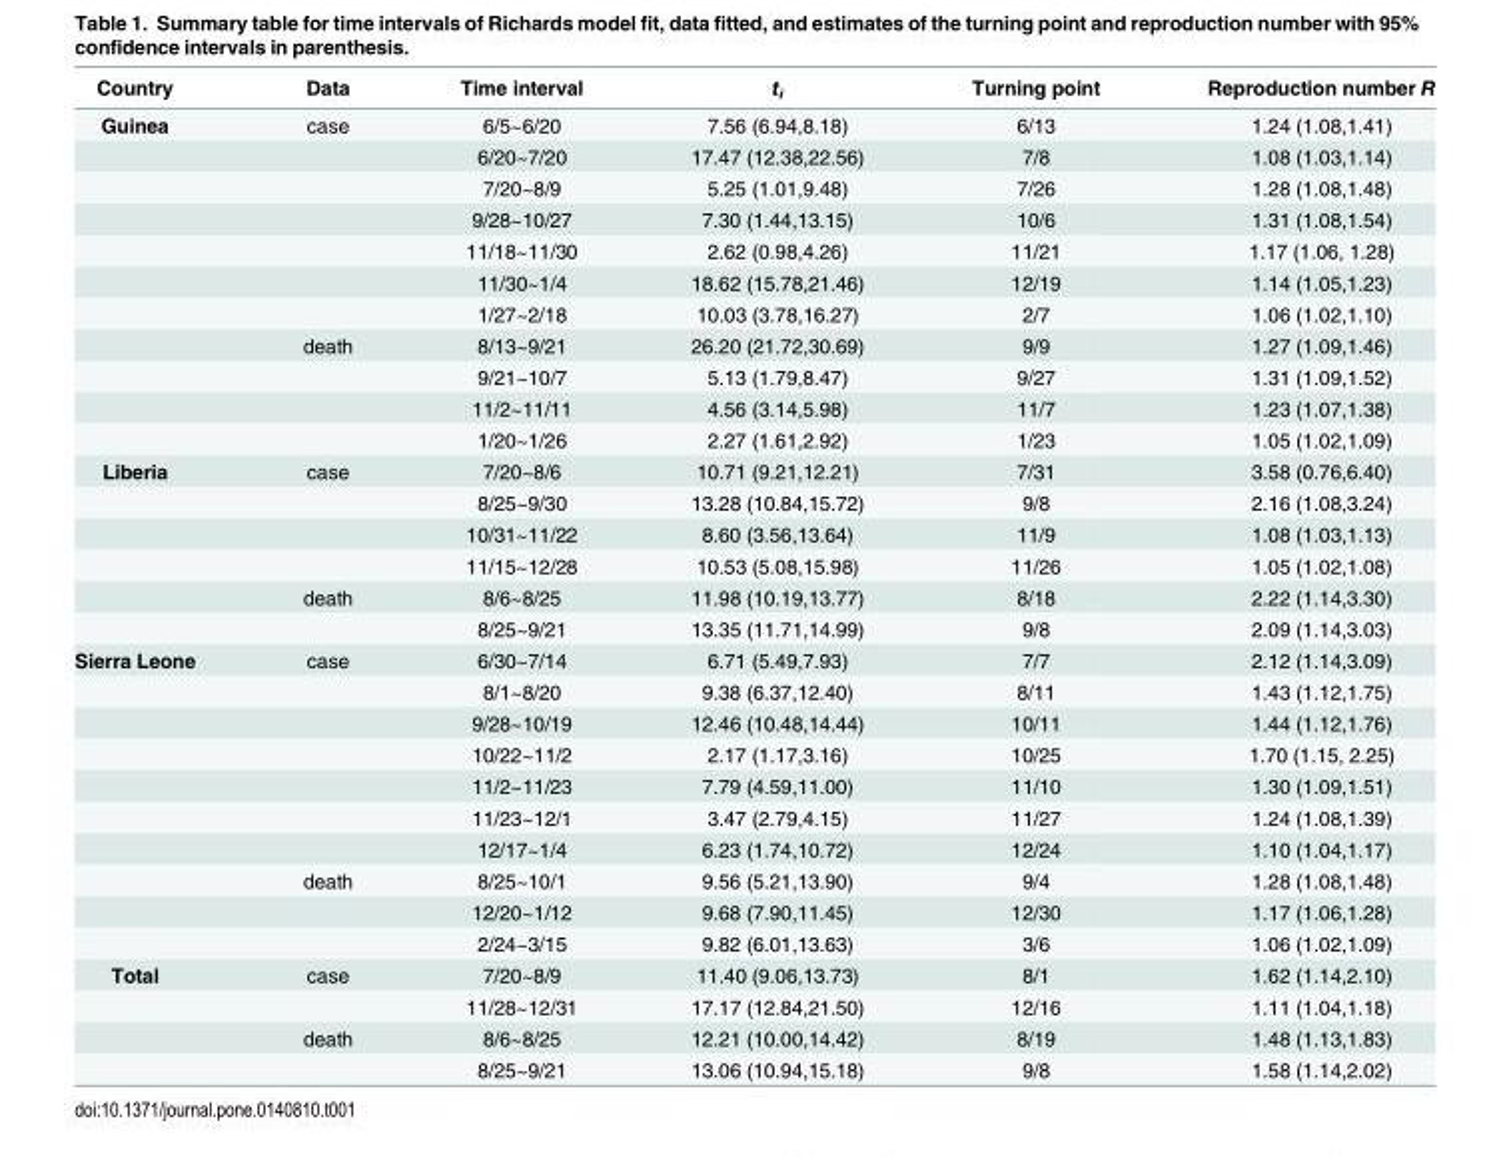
<table><thead><tr><td>Country</td><td>Data</td><td>Time interval</td><td>t<sub>i</sub></td><td>Turning point</td><td>Reproduction number R</td></tr></thead><tbody><tr><td rowspan="11">Guinea</td><td>case</td><td>6/5~6/20</td><td>7.56 (6.94,8.18)</td><td>6/13</td><td>1.24 (1.08,1.41)</td></tr><tr><td></td><td>6/20~7/20</td><td>17.47 (12.38,22.56)</td><td>7/8</td><td>1.08 (1.03,1.14)</td></tr><tr><td></td><td>7/20~8/9</td><td>5.25 (1.01,9.48)</td><td>7/26</td><td>1.28 (1.08,1.48)</td></tr><tr><td></td><td>9/28~10/27</td><td>7.30 (1.44,13.15)</td><td>10/6</td><td>1.31 (1.08,1.54)</td></tr><tr><td></td><td>11/18~11/30</td><td>2.62 (0.98,4.26)</td><td>11/21</td><td>1.17 (1.06, 1.28)</td></tr><tr><td></td><td>11/30~1/4</td><td>18.62 (15.78,21.46)</td><td>12/19</td><td>1.14 (1.05,1.23)</td></tr><tr><td></td><td>1/27~2/18</td><td>10.03 (3.78,16.27)</td><td>2/7</td><td>1.06 (1.02,1.10)</td></tr><tr><td>death</td><td>8/13~9/21</td><td>26.20 (21.72,30.69)</td><td>9/9</td><td>1.27 (1.09,1.46)</td></tr><tr><td></td><td>9/21~10/7</td><td>5.13 (1.79,8.47)</td><td>9/27</td><td>1.31 (1.09,1.52)</td></tr><tr><td></td><td>11/2~11/11</td><td>4.56 (3.14,5.98)</td><td>11/7</td><td>1.23 (1.07,1.38)</td></tr><tr><td></td><td>1/20~1/26</td><td>2.27 (1.61,2.92)</td><td>1/23</td><td>1.05 (1.02,1.09)</td></tr><tr><td rowspan="6">Liberia</td><td>case</td><td>7/20~8/6</td><td>10.71 (9.21,12.21)</td><td>7/31</td><td>3.58 (0.76,6.40)</td></tr><tr><td></td><td>8/25~9/30</td><td>13.28 (10.84,15.72)</td><td>9/8</td><td>2.16 (1.08,3.24)</td></tr><tr><td></td><td>10/31~11/22</td><td>8.60 (3.56,13.64)</td><td>11/9</td><td>1.08 (1.03,1.13)</td></tr><tr><td></td><td>11/15~12/28</td><td>10.53 (5.08,15.98)</td><td>11/26</td><td>1.05 (1.02,1.08)</td></tr><tr><td>death</td><td>8/6~8/25</td><td>11.98 (10.19,13.77)</td><td>8/18</td><td>2.22 (1.14,3.30)</td></tr><tr><td></td><td>8/25~9/21</td><td>13.35 (11.71,14.99)</td><td>9/8</td><td>2.09 (1.14,3.03)</td></tr><tr><td rowspan="10">Sierra Leone</td><td>case</td><td>6/30~7/14</td><td>6.71 (5.49,7.93)</td><td>7/7</td><td>2.12 (1.14,3.09)</td></tr><tr><td></td><td>8/1~8/20</td><td>9.38 (6.37,12.40)</td><td>8/11</td><td>1.43 (1.12,1.75)</td></tr><tr><td></td><td>9/28~10/19</td><td>12.46 (10.48,14.44)</td><td>10/11</td><td>1.44 (1.12,1.76)</td></tr><tr><td></td><td>10/22~11/2</td><td>2.17 (1.17,3.16)</td><td>10/25</td><td>1.70 (1.15, 2.25)</td></tr><tr><td></td><td>11/2~11/23</td><td>7.79 (4.59,11.00)</td><td>11/10</td><td>1.30 (1.09,1.51)</td></tr><tr><td></td><td>11/23~12/1</td><td>3.47 (2.79,4.15)</td><td>11/27</td><td>1.24 (1.08,1.39)</td></tr><tr><td></td><td>12/17~1/4</td><td>6.23 (1.74,10.72)</td><td>12/24</td><td>1.10 (1.04,1.17)</td></tr><tr><td>death</td><td>8/25~10/1</td><td>9.56 (5.21,13.90)</td><td>9/4</td><td>1.28 (1.08,1.48)</td></tr><tr><td></td><td>12/20~1/12</td><td>9.68 (7.90,11.45)</td><td>12/30</td><td>1.17 (1.06,1.28)</td></tr><tr><td></td><td>2/24~3/15</td><td>9.82 (6.01,13.63)</td><td>3/6</td><td>1.06 (1.02,1.09)</td></tr><tr><td rowspan="4">Total</td><td>case</td><td>7/20~8/9</td><td>11.40 (9.06,13.73)</td><td>8/1</td><td>1.62 (1.14,2.10)</td></tr><tr><td></td><td>11/28~12/31</td><td>17.17 (12.84,21.50)</td><td>12/16</td><td>1.11 (1.04,1.18)</td></tr><tr><td>death</td><td>8/6~8/25</td><td>12.21 (10.00,14.42)</td><td>8/19</td><td>1.48 (1.13,1.83)</td></tr><tr><td></td><td>8/25~9/21</td><td>13.06 (10.94,15.18)</td><td>9/8</td><td>1.58 (1.14,2.02)</td></tr></tbody></table>